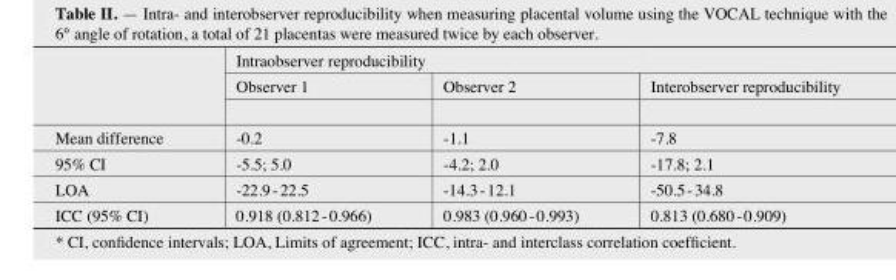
<table><thead><tr><td rowspan="2"></td><td colspan="3">Intraobserver reproducibility</td></tr><tr><td>Observer 1</td><td>Observer 2</td><td>Interobserver reproducibility</td></tr></thead><tbody><tr><td>Mean difference</td><td>-0.2</td><td>-1.1</td><td>-7.8</td></tr><tr><td>95% CI</td><td>-5.5; 5.0</td><td>-4.2; 2.0</td><td>-17.8; 2.1</td></tr><tr><td>LOA</td><td>-22.9 - 22.5</td><td>-14.3 - 12.1</td><td>-50.5 - 34.8</td></tr><tr><td>ICC (95% CI)</td><td>0.918 (0.812 - 0.966)</td><td>0.983 (0.960 - 0.993)</td><td>0.813 (0.680 - 0.909)</td></tr></tbody></table>